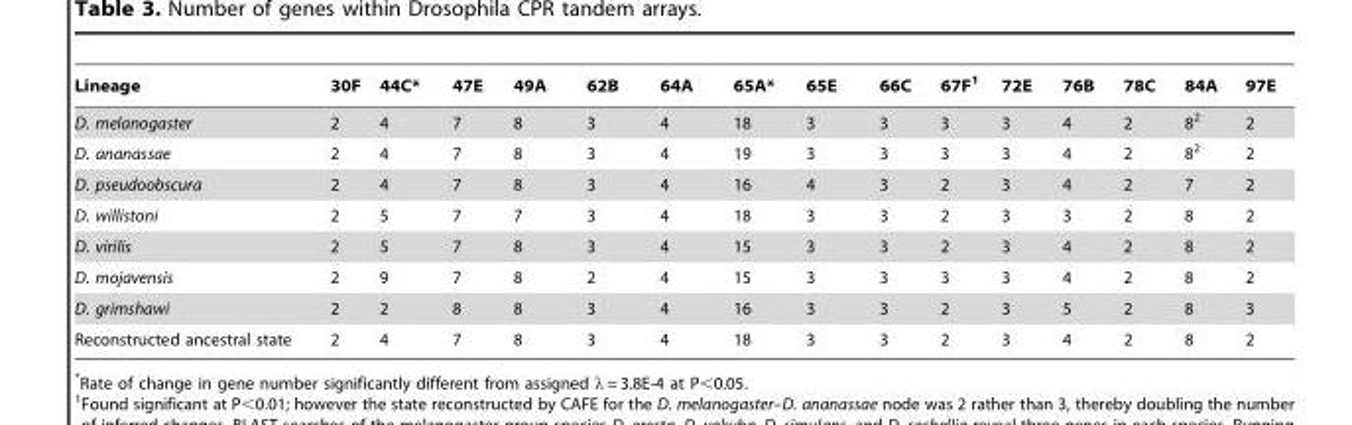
<table><thead><tr><td>Lineage</td><td>30F</td><td>44C*</td><td>47E</td><td>49A</td><td>62B</td><td>64A</td><td>65A*</td><td>65E</td><td>66C</td><td>67F<sup>1</sup></td><td>72E</td><td>76B</td><td>78C</td><td>84A</td><td>97E</td></tr></thead><tbody><tr><td>D. melanogaster</td><td>2</td><td>4</td><td>7</td><td>8</td><td>3</td><td>4</td><td>18</td><td>3</td><td>3</td><td>3</td><td>3</td><td>4</td><td>2</td><td>8<sup>2</sup></td><td>2</td></tr><tr><td>D. ananassae</td><td>2</td><td>4</td><td>7</td><td>8</td><td>3</td><td>4</td><td>19</td><td>3</td><td>3</td><td>3</td><td>3</td><td>4</td><td>2</td><td>8<sup>2</sup></td><td>2</td></tr><tr><td>D. pseudoobscura</td><td>2</td><td>4</td><td>7</td><td>8</td><td>3</td><td>4</td><td>16</td><td>4</td><td>3</td><td>2</td><td>3</td><td>4</td><td>2</td><td>7</td><td>2</td></tr><tr><td>D. willistoni</td><td>2</td><td>5</td><td>7</td><td>7</td><td>3</td><td>4</td><td>18</td><td>3</td><td>3</td><td>2</td><td>3</td><td>3</td><td>2</td><td>8</td><td>2</td></tr><tr><td>D. virilis</td><td>2</td><td>5</td><td>7</td><td>8</td><td>3</td><td>4</td><td>15</td><td>3</td><td>3</td><td>2</td><td>3</td><td>4</td><td>2</td><td>8</td><td>2</td></tr><tr><td>D. mojavensis</td><td>2</td><td>9</td><td>7</td><td>8</td><td>2</td><td>4</td><td>15</td><td>3</td><td>3</td><td>3</td><td>3</td><td>4</td><td>2</td><td>8</td><td>2</td></tr><tr><td>D. grimshawi</td><td>2</td><td>2</td><td>8</td><td>8</td><td>3</td><td>4</td><td>16</td><td>3</td><td>3</td><td>2</td><td>3</td><td>5</td><td>2</td><td>8</td><td>3</td></tr><tr><td>Reconstructed ancestral state</td><td>2</td><td>4</td><td>7</td><td>8</td><td>3</td><td>4</td><td>18</td><td>3</td><td>3</td><td>2</td><td>3</td><td>4</td><td>2</td><td>8</td><td>2</td></tr></tbody></table>